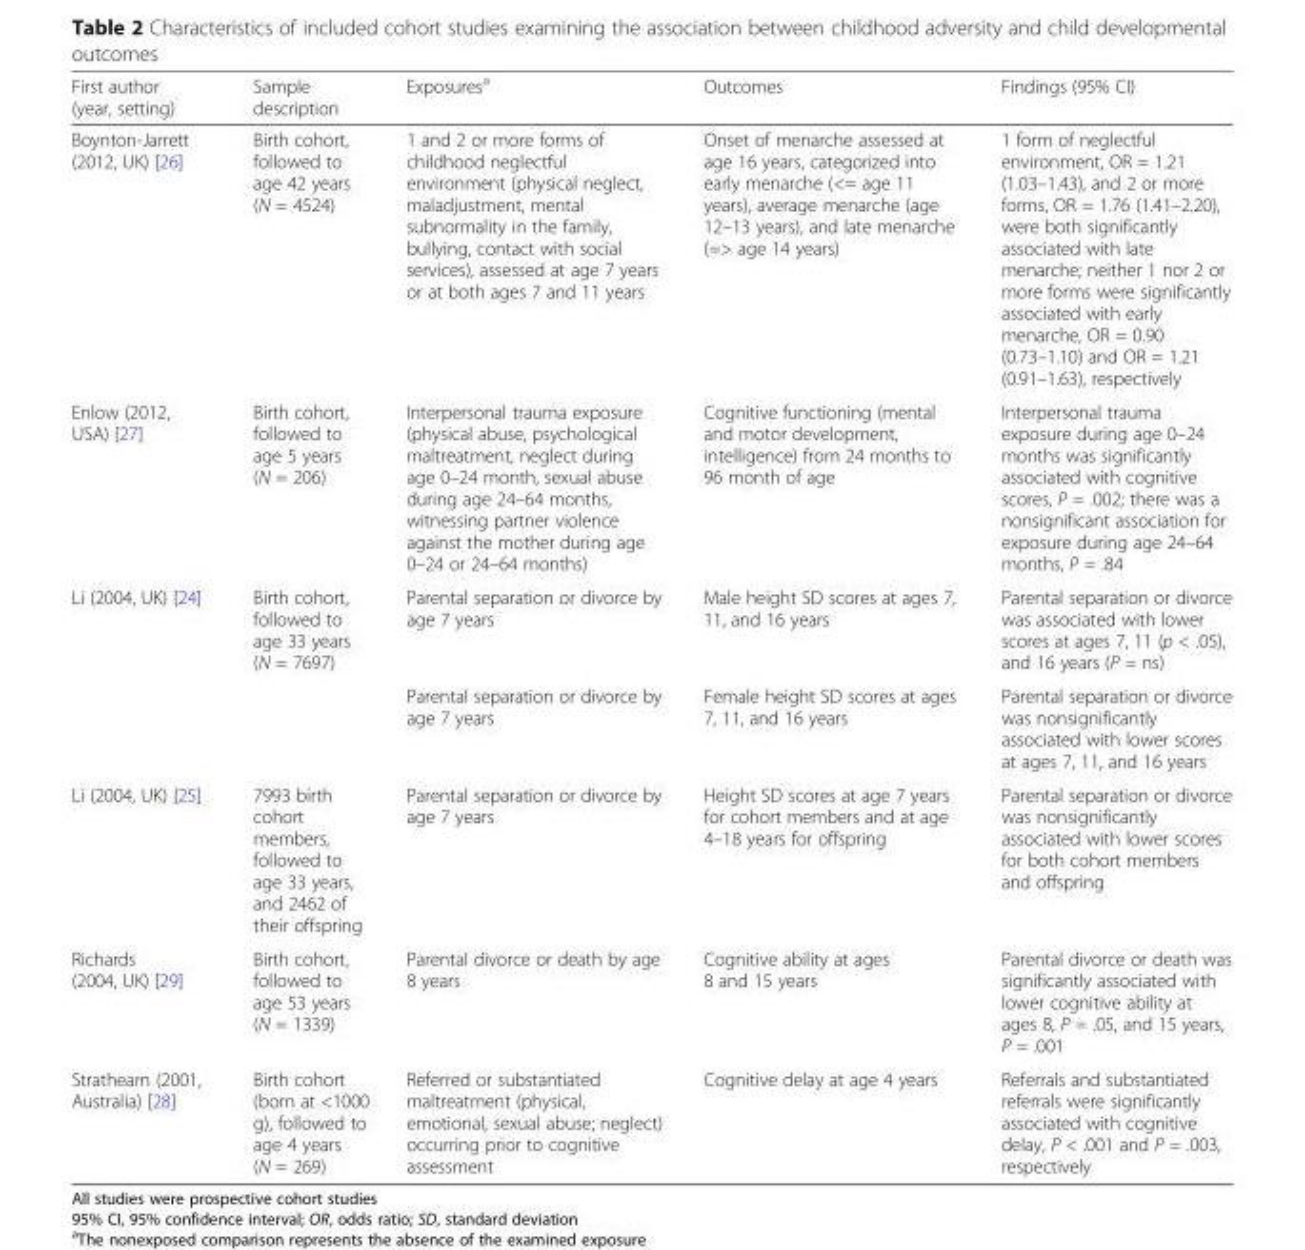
<table><thead><tr><td>First author (year, setting)</td><td>Sample description</td><td>Exposures<sup>a</sup></td><td>Outcomes</td><td>Findings (95% CI)</td></tr></thead><tbody><tr><td>Boynton-Jarrett (2012, UK) [26]</td><td>Birth cohort, followed to age 42 years (N = 4524)</td><td>1 and 2 or more forms of childhood neglectful environment (physical neglect, maladjustment, mental subnormality in the family, bullying, contact with social services), assessed at age 7 years or at both ages 7 and 11 years</td><td>Onset of menarche assessed at age 16 years, categorized into early menarche (&lt;= age 11 years), average menarche (age 12–13 years), and late menarche (=&gt; age 14 years)</td><td>1 form of neglectful environment, OR = 1.21 (1.03–1.43), and 2 or more forms, OR = 1.76 (1.41–2.20), were both significantly associated with late menarche; neither 1 nor 2 or more forms were significantly associated with early menarche, OR = 0.90 (0.73–1.10) and OR = 1.21 (0.91–1.63), respectively</td></tr><tr><td>Enlow (2012, USA) [27]</td><td>Birth cohort, followed to age 5 years (N = 206)</td><td>Interpersonal trauma exposure (physical abuse, psychological maltreatment, neglect during age 0–24 month, sexual abuse during age 24–64 months, witnessing partner violence against the mother during age 0–24 or 24–64 months)</td><td>Cognitive functioning (mental and motor development, intelligence) from 24 months to 96 month of age</td><td>Interpersonal trauma exposure during age 0–24 months was significantly associated with cognitive scores, P = .002; there was a nonsignificant association for exposure during age 24–64 months, P = .84</td></tr><tr><td rowspan="2">Li (2004, UK) [24]</td><td>Birth cohort, followed to age 33 years (N = 7697)</td><td>Parental separation or divorce by age 7 years</td><td>Male height SD scores at ages 7, 11, and 16 years</td><td>Parental separation or divorce was associated with lower scores at ages 7, 11 (p &lt; .05), and 16 years (P = ns)</td></tr><tr><td></td><td>Parental separation or divorce by age 7 years</td><td>Female height SD scores at ages 7, 11, and 16 years</td><td>Parental separation or divorce was nonsignificantly associated with lower scores at ages 7, 11, and 16 years</td></tr><tr><td>Li (2004, UK) [25]</td><td>7993 birth cohort members, followed to age 33 years, and 2462 of their offspring</td><td>Parental separation or divorce by age 7 years</td><td>Height SD scores at age 7 years for cohort members and at age 4–18 years for offspring</td><td>Parental separation or divorce was nonsignificantly associated with lower scores for both cohort members and offspring</td></tr><tr><td>Richards (2004, UK) [29]</td><td>Birth cohort, followed to age 53 years (N = 1339)</td><td>Parental divorce or death by age 8 years</td><td>Cognitive ability at ages 8 and 15 years</td><td>Parental divorce or death was significantly associated with lower cognitive ability at ages 8, P = .05, and 15 years, P = .001</td></tr><tr><td>Strathearn (2001, Australia) [28]</td><td>Birth cohort (born at &lt;1000 g), followed to age 4 years (N = 269)</td><td>Referred or substantiated maltreatment (physical, emotional, sexual abuse; neglect) occurring prior to cognitive assessment</td><td>Cognitive delay at age 4 years</td><td>Referrals and substantiated referrals were significantly associated with cognitive delay, P &lt; .001 and P = .003, respectively</td></tr></tbody></table>